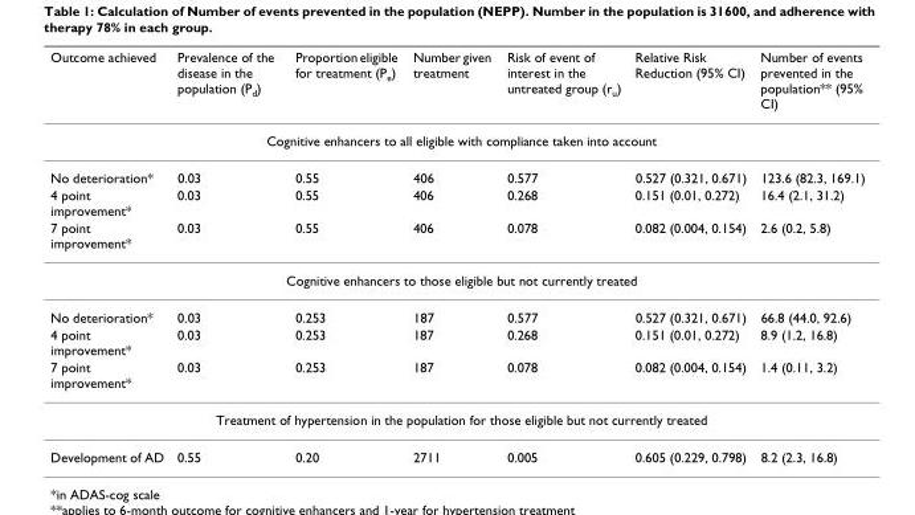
<table><thead><tr><td>Outcome achieved</td><td>Prevalence of the disease in the population (P<sub>d</sub>)</td><td>Proportion eligible for treatment (P<sub>e</sub>)</td><td>Number given treatment</td><td>Risk of event of interest in the untreated group (r<sub>u</sub>)</td><td>Relative Risk Reduction (95% CI)</td><td>Number of events prevented in the population** (95% CI)</td></tr></thead><tbody><tr><td colspan="7">Cognitive enhancers to all eligible with compliance taken into account</td></tr><tr><td>No deterioration*</td><td>0.03</td><td>0.55</td><td>406</td><td>0.577</td><td>0.527 (0.321, 0.671)</td><td>123.6 (82.3, 169.1)</td></tr><tr><td>4 point improvement*</td><td>0.03</td><td>0.55</td><td>406</td><td>0.268</td><td>0.151 (0.01, 0.272)</td><td>16.4 (2.1, 31.2)</td></tr><tr><td>7 point improvement*</td><td>0.03</td><td>0.55</td><td>406</td><td>0.078</td><td>0.082 (0.004, 0.154)</td><td>2.6 (0.2, 5.8)</td></tr><tr><td colspan="7">Cognitive enhancers to those eligible but not currently treated</td></tr><tr><td>No deterioration*</td><td>0.03</td><td>0.253</td><td>187</td><td>0.577</td><td>0.527 (0.321, 0.671)</td><td>66.8 (44.0, 92.6)</td></tr><tr><td>4 point improvement*</td><td>0.03</td><td>0.253</td><td>187</td><td>0.268</td><td>0.151 (0.01, 0.272)</td><td>8.9 (1.2, 16.8)</td></tr><tr><td>7 point improvement*</td><td>0.03</td><td>0.253</td><td>187</td><td>0.078</td><td>0.082 (0.004, 0.154)</td><td>1.4 (0.11, 3.2)</td></tr><tr><td colspan="7">Treatment of hypertension in the population for those eligible but not currently treated</td></tr><tr><td>Development of AD</td><td>0.55</td><td>0.20</td><td>2711</td><td>0.005</td><td>0.605 (0.229, 0.798)</td><td>8.2 (2.3, 16.8)</td></tr></tbody></table>